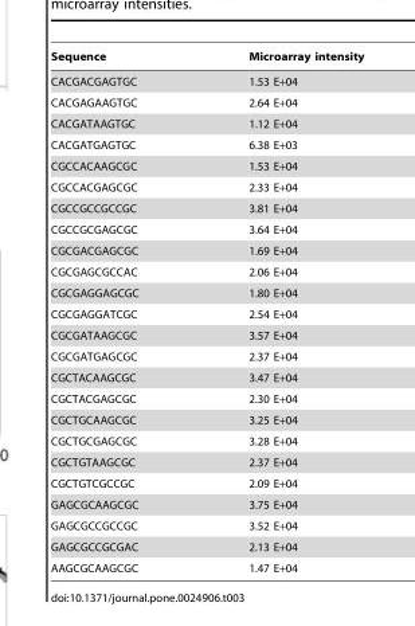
<table><thead><tr><td>Sequence</td><td>Microarray intensity</td></tr></thead><tbody><tr><td>CACGACGAGTGC</td><td>1.53 E+04</td></tr><tr><td>CACGAGAAGTGC</td><td>2.64 E+04</td></tr><tr><td>CACGATAAGTGC</td><td>1.12 E+04</td></tr><tr><td>CACGATGAGTGC</td><td>6.38 E+03</td></tr><tr><td>CGCCACAAGCGC</td><td>1.53 E+04</td></tr><tr><td>CGCCACGAGCGC</td><td>2.33 E+04</td></tr><tr><td>CGCCGCCGCCGC</td><td>3.81 E+04</td></tr><tr><td>CGCCGCGAGCGC</td><td>3.64 E+04</td></tr><tr><td>CGCGACGAGCGC</td><td>1.69 E+04</td></tr><tr><td>CGCGAGCGCCAC</td><td>2.06 E+04</td></tr><tr><td>CGCGAGGAGCGC</td><td>1.80 E+04</td></tr><tr><td>CGCGAGGATCGC</td><td>2.54 E+04</td></tr><tr><td>CGCGATAAGCGC</td><td>3.57 E+04</td></tr><tr><td>CGCGATGAGCGC</td><td>2.37 E+04</td></tr><tr><td>CGCTACAAGCGC</td><td>3.47 E+04</td></tr><tr><td>CGCTACGAGCGC</td><td>2.30 E+04</td></tr><tr><td>CGCTGCAAGCGC</td><td>3.25 E+04</td></tr><tr><td>CGCTGCGAGCGC</td><td>3.28 E+04</td></tr><tr><td>CGCTGTAAGCGC</td><td>2.37 E+04</td></tr><tr><td>CGCTGTCGCCGC</td><td>2.09 E+04</td></tr><tr><td>GAGCGCAAGCGC</td><td>3.75 E+04</td></tr><tr><td>GAGCGCCGCCGC</td><td>3.52 E+04</td></tr><tr><td>GAGCGCCGCGAC</td><td>2.13 E+04</td></tr><tr><td>AAGCGCAAGCGC</td><td>1.47 E+04</td></tr></tbody></table>